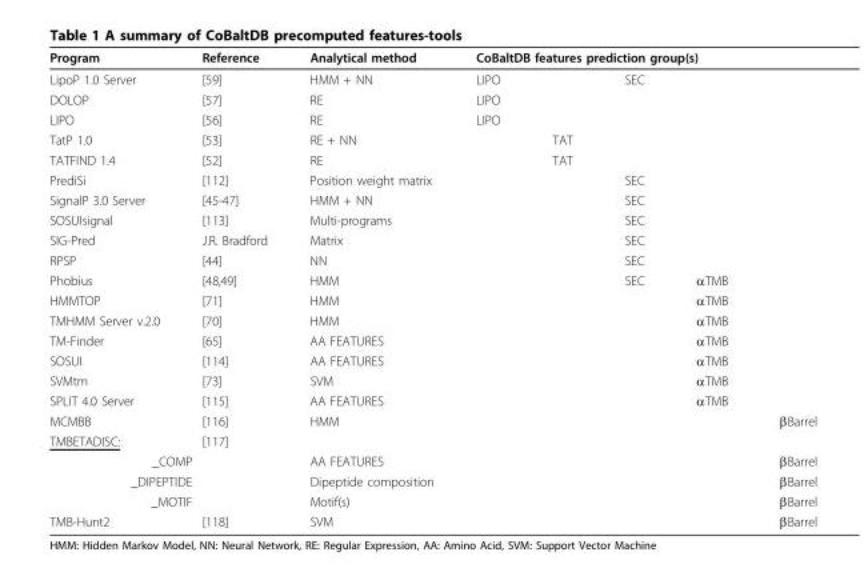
<table><thead><tr><td rowspan="2">Program LipoP 1.0 Server</td><td rowspan="2">Reference [59]</td><td rowspan="2">Analytical method HMM + NN</td><td colspan="5">CoBaltDB features prediction group(s)</td></tr><tr><td>LIPO</td><td></td><td>SEC</td><td></td><td></td></tr></thead><tbody><tr><td>DOLOP</td><td>[57]</td><td>RE</td><td>LIPO</td><td></td><td></td><td></td><td></td></tr><tr><td>LIPO</td><td>[56]</td><td>RE</td><td>LIPO</td><td></td><td></td><td></td><td></td></tr><tr><td>TatP 1.0</td><td>[53]</td><td>RE + NN</td><td></td><td>TAT</td><td></td><td></td><td></td></tr><tr><td>TATFIND 1.4</td><td>[52]</td><td>RE</td><td></td><td>TAT</td><td></td><td></td><td></td></tr><tr><td>PrediSi</td><td>[112]</td><td>Position weight matrix</td><td></td><td></td><td>SEC</td><td></td><td></td></tr><tr><td>SignalP 3.0 Server</td><td>[45-47]</td><td>HMM + NN</td><td></td><td></td><td>SEC</td><td></td><td></td></tr><tr><td>SOSUIsignal</td><td>[113]</td><td>Multi-programs</td><td></td><td></td><td>SEC</td><td></td><td></td></tr><tr><td>SIG-Pred</td><td>J.R. Bradford</td><td>Matrix</td><td></td><td></td><td>SEC</td><td></td><td></td></tr><tr><td>RPSP</td><td>[44]</td><td>NN</td><td></td><td></td><td>SEC</td><td></td><td></td></tr><tr><td>Phobius</td><td>[48,49]</td><td>HMM</td><td></td><td></td><td>SEC</td><td>αTMB</td><td></td></tr><tr><td>HMMTOP</td><td>[71]</td><td>HMM</td><td></td><td></td><td></td><td>αTMB</td><td></td></tr><tr><td>TMHMM Server v.2.0</td><td>[70]</td><td>HMM</td><td></td><td></td><td></td><td>αTMB</td><td></td></tr><tr><td>TM-Finder</td><td>[65]</td><td>AA FEATURES</td><td></td><td></td><td></td><td>αTMB</td><td></td></tr><tr><td>SOSUI</td><td>[114]</td><td>AA FEATURES</td><td></td><td></td><td></td><td>αTMB</td><td></td></tr><tr><td>SVMtm</td><td>[73]</td><td>SVM</td><td></td><td></td><td></td><td>αTMB</td><td></td></tr><tr><td>SPLIT 4.0 Server</td><td>[115]</td><td>AA FEATURES</td><td></td><td></td><td></td><td>αTMB</td><td></td></tr><tr><td>MCMBB</td><td>[116]</td><td>HMM</td><td></td><td></td><td></td><td></td><td>βBarrel</td></tr><tr><td>TMBETADISC:</td><td>[117]</td><td></td><td></td><td></td><td></td><td></td><td></td></tr><tr><td>_COMP</td><td></td><td>AA FEATURES</td><td></td><td></td><td></td><td></td><td>βBarrel</td></tr><tr><td>_DIPEPTIDE</td><td></td><td>Dipeptide composition</td><td></td><td></td><td></td><td></td><td>βBarrel</td></tr><tr><td>_MOTIF</td><td></td><td>Motif(s)</td><td></td><td></td><td></td><td></td><td>βBarrel</td></tr><tr><td>TMB-Hunt2</td><td>[118]</td><td>SVM</td><td></td><td></td><td></td><td></td><td>βBarrel</td></tr></tbody></table>